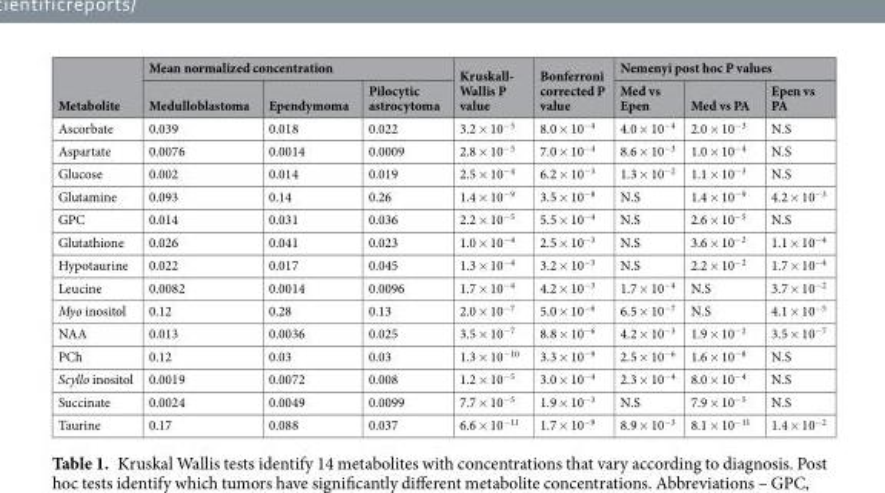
<table><thead><tr><td rowspan="2">Metabolite</td><td colspan="3">Mean normalized concentration</td><td rowspan="2">Kruskall- Wallis P value</td><td rowspan="2">Bonferroni corrected P value</td><td colspan="3">Nemenyi post hoc P values</td></tr><tr><td>Medulloblastoma</td><td>Ependymoma</td><td>Pilocytic astrocytoma</td><td>Med vs Epen</td><td>Med vs PA</td><td>Epen vs PA</td></tr></thead><tbody><tr><td>Ascorbate</td><td>0.039</td><td>0.018</td><td>0.022</td><td>3.2 × 10<sup>−5</sup></td><td>8.0 × 10<sup>−4</sup></td><td>4.0 × 10<sup>−4</sup></td><td>2.0 × 10<sup>−3</sup></td><td>N.S</td></tr><tr><td>Aspartate</td><td>0.0076</td><td>0.0014</td><td>0.0009</td><td>2.8 × 10<sup>−5</sup></td><td>7.0 × 10<sup>−4</sup></td><td>8.6 × 10<sup>−3</sup></td><td>1.0 × 10<sup>−4</sup></td><td>N.S</td></tr><tr><td>Glucose</td><td>0.002</td><td>0.014</td><td>0.019</td><td>2.5 × 10<sup>−4</sup></td><td>6.2 × 10<sup>−3</sup></td><td>1.3 × 10<sup>−2</sup></td><td>1.1 × 10<sup>−3</sup></td><td>N.S</td></tr><tr><td>Glutamine</td><td>0.093</td><td>0.14</td><td>0.26</td><td>1.4 × 10<sup>−9</sup></td><td>3.5 × 10<sup>−8</sup></td><td>N.S</td><td>1.4 × 10<sup>−9</sup></td><td>4.2 × 10<sup>−3</sup></td></tr><tr><td>GPC</td><td>0.014</td><td>0.031</td><td>0.036</td><td>2.2 × 10<sup>−5</sup></td><td>5.5 × 10<sup>−4</sup></td><td>N.S</td><td>2.6 × 10<sup>−5</sup></td><td>N.S</td></tr><tr><td>Glutathione</td><td>0.026</td><td>0.041</td><td>0.023</td><td>1.0 × 10<sup>−4</sup></td><td>2.5 × 10<sup>−3</sup></td><td>N.S</td><td>3.6 × 10<sup>−2</sup></td><td>1.1 × 10<sup>−4</sup></td></tr><tr><td>Hypotaurine</td><td>0.022</td><td>0.017</td><td>0.045</td><td>1.3 × 10<sup>−4</sup></td><td>3.2 × 10<sup>−3</sup></td><td>N.S</td><td>2.2 × 10<sup>−2</sup></td><td>1.7 × 10<sup>−4</sup></td></tr><tr><td>Leucine</td><td>0.0082</td><td>0.0014</td><td>0.0096</td><td>1.7 × 10<sup>−4</sup></td><td>4.2 × 10<sup>−3</sup></td><td>1.7 × 10<sup>−4</sup></td><td>N.S</td><td>3.7 × 10<sup>−2</sup></td></tr><tr><td>Myo inositol</td><td>0.12</td><td>0.28</td><td>0.13</td><td>2.0 × 10<sup>−7</sup></td><td>5.0 × 10<sup>−6</sup></td><td>6.5 × 10<sup>−7</sup></td><td>N.S</td><td>4.1 × 10<sup>−5</sup></td></tr><tr><td>NAA</td><td>0.013</td><td>0.0036</td><td>0.025</td><td>3.5 × 10<sup>−7</sup></td><td>8.8 × 10<sup>−6</sup></td><td>4.2 × 10<sup>−3</sup></td><td>1.9 × 10<sup>−2</sup></td><td>3.5 × 10<sup>−7</sup></td></tr><tr><td>PCh</td><td>0.12</td><td>0.03</td><td>0.03</td><td>1.3 × 10<sup>−10</sup></td><td>3.3 × 10<sup>−9</sup></td><td>2.5 × 10<sup>−6</sup></td><td>1.6 × 10<sup>−8</sup></td><td>N.S</td></tr><tr><td>Scyllo inositol</td><td>0.0019</td><td>0.0072</td><td>0.008</td><td>1.2 × 10<sup>−5</sup></td><td>3.0 × 10<sup>−4</sup></td><td>2.3 × 10<sup>−4</sup></td><td>8.0 × 10<sup>−4</sup></td><td>N.S</td></tr><tr><td>Succinate</td><td>0.0024</td><td>0.0049</td><td>0.0099</td><td>7.7 × 10<sup>−5</sup></td><td>1.9 × 10<sup>−3</sup></td><td>N.S</td><td>7.9 × 10<sup>−5</sup></td><td>N.S</td></tr><tr><td>Taurine</td><td>0.17</td><td>0.088</td><td>0.037</td><td>6.6 × 10<sup>−11</sup></td><td>1.7 × 10<sup>−9</sup></td><td>8.9 × 10<sup>−3</sup></td><td>8.1 × 10<sup>−11</sup></td><td>1.4 × 10<sup>−2</sup></td></tr></tbody></table>